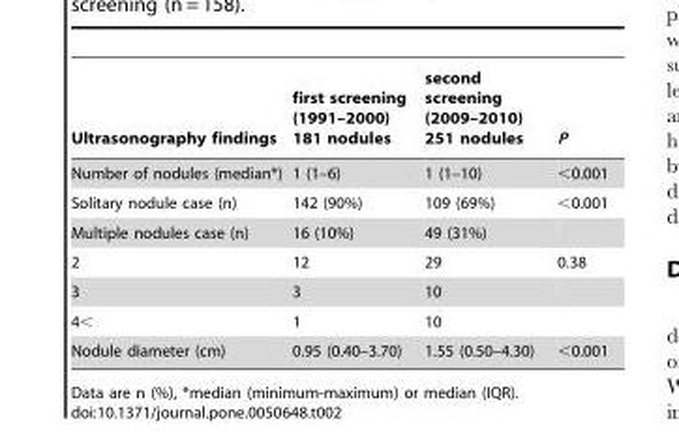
<table><thead><tr><td>Ultrasonography findings</td><td>first screening (1991–2000) 181 nodules</td><td>second screening (2009–2010) 251 nodules</td><td>P</td></tr></thead><tbody><tr><td>Number of nodules (median*)</td><td>1 (1–6)</td><td>1 (1–10)</td><td>&lt;0.001</td></tr><tr><td>Solitary nodule case (n)</td><td>142 (90%)</td><td>109 (69%)</td><td>&lt;0.001</td></tr><tr><td>Multiple nodules case (n)</td><td>16 (10%)</td><td>49 (31%)</td><td></td></tr><tr><td>2</td><td>12</td><td>29</td><td>0.38</td></tr><tr><td>3</td><td>3</td><td>10</td><td></td></tr><tr><td>4&lt;</td><td>1</td><td>10</td><td></td></tr><tr><td>Nodule diameter (cm)</td><td>0.95 (0.40–3.70)</td><td>1.55 (0.50–4.30)</td><td>&lt;0.001</td></tr></tbody></table>